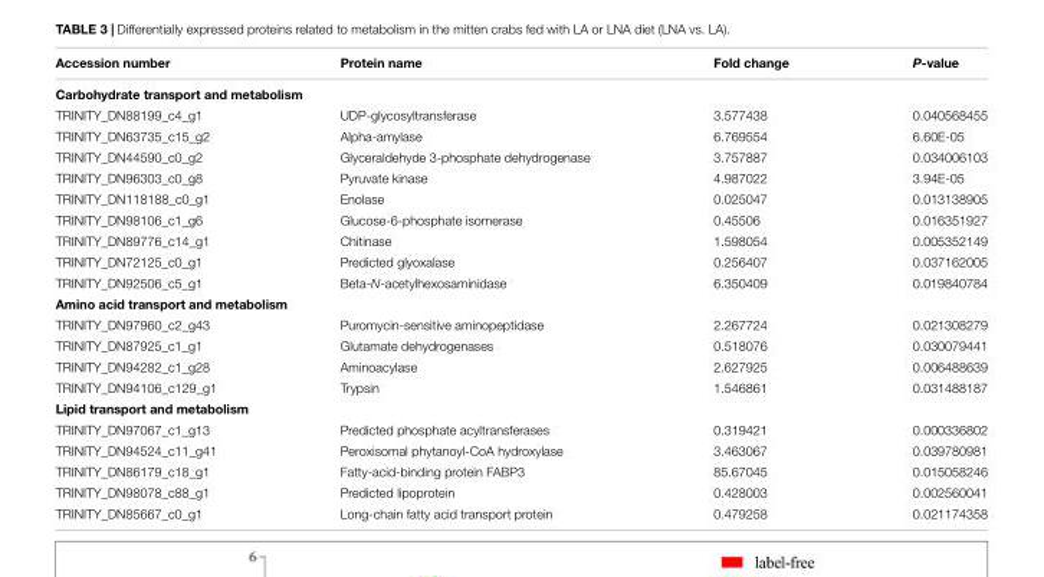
<table><thead><tr><td>Accession number</td><td>Protein name</td><td>Fold change</td><td>P-value</td></tr></thead><tbody><tr><td colspan="4">Carbohydrate transport and metabolism</td></tr><tr><td>TRINITY_DN88199_c4_g1</td><td>UDP-glycosyltransferase</td><td>3.577438</td><td>0.040568455</td></tr><tr><td>TRINITY_DN63735_c15_g2</td><td>Alpha-amylase</td><td>6.769554</td><td>6.60E-05</td></tr><tr><td>TRINITY_DN44590_c0_g2</td><td>Glyceraldehyde 3-phosphate dehydrogenase</td><td>3.757887</td><td>0.034006103</td></tr><tr><td>TRINITY_DN96303_c0_g8</td><td>Pyruvate kinase</td><td>4.987022</td><td>3.94E-05</td></tr><tr><td>TRINITY_DN118188_c0_g1</td><td>Enolase</td><td>0.025047</td><td>0.013138905</td></tr><tr><td>TRINITY_DN98106_c1_g6</td><td>Glucose-6-phosphate isomerase</td><td>0.45506</td><td>0.016351927</td></tr><tr><td>TRINITY_DN89776_c14_g1</td><td>Chitinase</td><td>1.598054</td><td>0.005352149</td></tr><tr><td>TRINITY_DN72125_c0_g1</td><td>Predicted glyoxalase</td><td>0.256407</td><td>0.037162005</td></tr><tr><td>TRINITY_DN92506_c5_g1</td><td>Beta-N-acetylhexosaminidase</td><td>6.350409</td><td>0.019840784</td></tr><tr><td colspan="4">Amino acid transport and metabolism</td></tr><tr><td>TRINITY_DN97960_c2_g43</td><td>Puromycin-sensitive aminopeptidase</td><td>2.267724</td><td>0.021308279</td></tr><tr><td>TRINITY_DN87925_c1_g1</td><td>Glutamate dehydrogenases</td><td>0.518076</td><td>0.030079441</td></tr><tr><td>TRINITY_DN94282_c1_g28</td><td>Aminoacylase</td><td>2.627925</td><td>0.006488639</td></tr><tr><td>TRINITY_DN94106_c129_g1</td><td>Trypsin</td><td>1.546861</td><td>0.031488187</td></tr><tr><td colspan="4">Lipid transport and metabolism</td></tr><tr><td>TRINITY_DN97067_c1_g13</td><td>Predicted phosphate acyltransferases</td><td>0.319421</td><td>0.000336802</td></tr><tr><td>TRINITY_DN94524_c11_g41</td><td>Peroxisomal phytanoyl-CoA hydroxylase</td><td>3.463067</td><td>0.039780981</td></tr><tr><td>TRINITY_DN86179_c18_g1</td><td>Fatty-acid-binding protein FABP3</td><td>85.67045</td><td>0.015058246</td></tr><tr><td>TRINITY_DN98078_c88_g1</td><td>Predicted lipoprotein</td><td>0.428003</td><td>0.002560041</td></tr><tr><td>TRINITY_DN85667_c0_g1</td><td>Long-chain fatty acid transport protein</td><td>0.479258</td><td>0.021174358</td></tr></tbody></table>